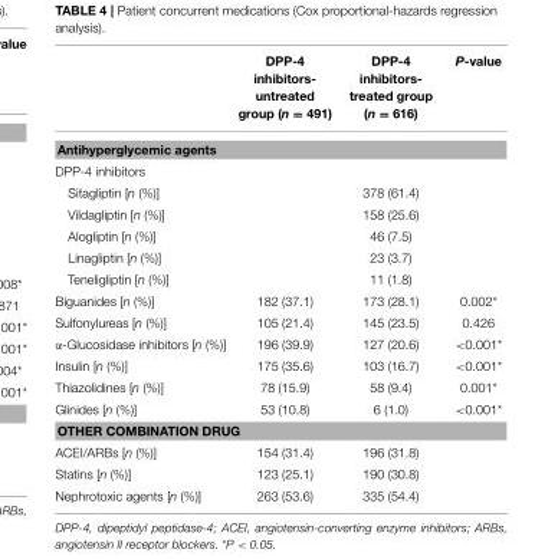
<table><thead><tr><td></td><td>DPP-4 inhibitors- untreated group (n = 491)</td><td>DPP-4 inhibitors- treated group (n = 616)</td><td>P-value</td></tr></thead><tbody><tr><td colspan="4">Antihyperglycemic agents</td></tr><tr><td colspan="4">DPP-4 inhibitors</td></tr><tr><td>Sitagliptin [n (%)]</td><td></td><td>378 (61.4)</td><td></td></tr><tr><td>Vildagliptin [n (%)]</td><td></td><td>158 (25.6)</td><td></td></tr><tr><td>Alogliptin [n (%)]</td><td></td><td>46 (7.5)</td><td></td></tr><tr><td>Linagliptin [n (%)]</td><td></td><td>23 (3.7)</td><td></td></tr><tr><td>Teneligliptin [n (%)]</td><td></td><td>11 (1.8)</td><td></td></tr><tr><td>Biguanides [n (%)]</td><td>182 (37.1)</td><td>173 (28.1)</td><td>0.002*</td></tr><tr><td>Sulfonylureas [n (%)]</td><td>105 (21.4)</td><td>145 (23.5)</td><td>0.426</td></tr><tr><td>α-Glucosidase inhibitors [n (%)]</td><td>196 (39.9)</td><td>127 (20.6)</td><td>&lt;0.001*</td></tr><tr><td>Insulin [n (%)]</td><td>175 (35.6)</td><td>103 (16.7)</td><td>&lt;0.001*</td></tr><tr><td>Thiazolidines [n (%)]</td><td>78 (15.9)</td><td>58 (9.4)</td><td>0.001*</td></tr><tr><td>Glinides [n (%)]</td><td>53 (10.8)</td><td>6 (1.0)</td><td>&lt;0.001*</td></tr><tr><td colspan="4">OTHER COMBINATION DRUG</td></tr><tr><td>ACEI/ARBs [n (%)]</td><td>154 (31.4)</td><td>196 (31.8)</td><td></td></tr><tr><td>Statins [n (%)]</td><td>123 (25.1)</td><td>190 (30.8)</td><td></td></tr><tr><td>Nephrotoxic agents [n (%)]</td><td>263 (53.6)</td><td>335 (54.4)</td><td></td></tr></tbody></table>